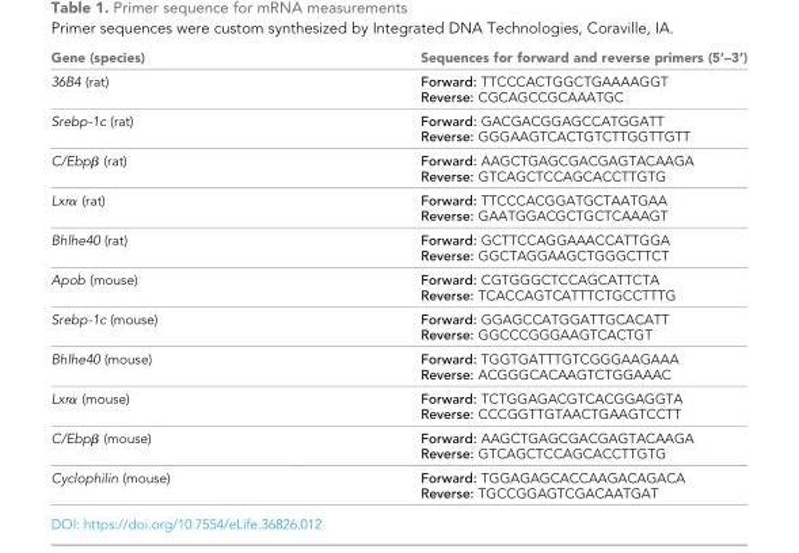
<table><thead><tr><td>Gene (species)</td><td>Sequences for forward and reverse primers (5’–3’)</td></tr></thead><tbody><tr><td>36B4 (rat)</td><td>Forward: TTCCCACTGGCTGAAAAGGT Reverse: CGCAGCCGCAAATGC</td></tr><tr><td>Srebp-1c (rat)</td><td>Forward: GACGACGGAGCCATGGATT Reverse: GGGAAGTCACTGTCTTGGTTGTT</td></tr><tr><td>C/Ebpβ (rat)</td><td>Forward: AAGCTGAGCGACGAGTACAAGA Reverse: GTCAGCTCCAGCACCTTGTG</td></tr><tr><td>Lxrα (rat)</td><td>Forward: TTCCCACGGATGCTAATGAA Reverse: GAATGGACGCTGCTCAAAGT</td></tr><tr><td>Bhlhe40 (rat)</td><td>Forward: GCTTCCAGGAAACCATTGGA Reverse: GGCTAGGAAGCTGGGCTTCT</td></tr><tr><td>Apob (mouse)</td><td>Forward: CGTGGGCTCCAGCATTCTA Reverse: TCACCAGTCATTTCTGCCTTTG</td></tr><tr><td>Srebp-1c (mouse)</td><td>Forward: GGAGCCATGGATTGCACATT Reverse: GGCCCGGGAAGTCACTGT</td></tr><tr><td>Bhlhe40 (mouse)</td><td>Forward: TGGTGATTTGTCGGGAAGAAA Reverse: ACGGGCACAAGTCTGGAAAC</td></tr><tr><td>Lxrα (mouse)</td><td>Forward: TCTGGAGACGTCACGGAGGTA Reverse: CCCGGTTGTAACTGAAGTCCTT</td></tr><tr><td>C/Ebpβ (mouse)</td><td>Forward: AAGCTGAGCGACGAGTACAAGA Reverse: GTCAGCTCCAGCACCTTGTG</td></tr><tr><td>Cyclophilin (mouse)</td><td>Forward: TGGAGAGCACCAAGACAGACA Reverse: TGCCGGAGTCGACAATGAT</td></tr></tbody></table>